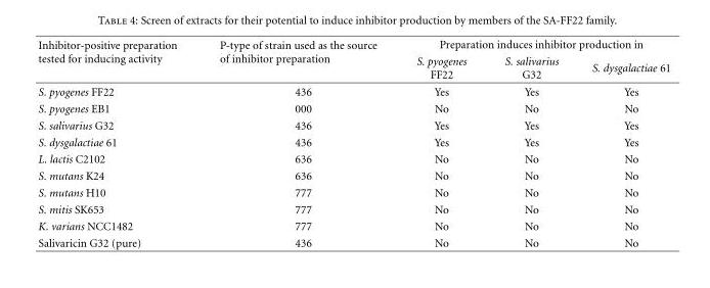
<table><thead><tr><td rowspan="2">Inhibitor-positive preparation tested for inducing activity</td><td rowspan="2">P-type of strain used as the source of inhibitor preparation</td><td colspan="3">Preparation induces inhibitor production in</td></tr><tr><td>S. pyogenes FF22</td><td>S. salivarius G32</td><td>S. dysgalactiae 61</td></tr></thead><tbody><tr><td>S. pyogenes FF22</td><td>436</td><td>Yes</td><td>Yes</td><td>Yes</td></tr><tr><td>S. pyogenes EB1</td><td>000</td><td>No</td><td>No</td><td>No</td></tr><tr><td>S. salivarius G32</td><td>436</td><td>Yes</td><td>Yes</td><td>Yes</td></tr><tr><td>S. dysgalactiae 61</td><td>436</td><td>Yes</td><td>Yes</td><td>Yes</td></tr><tr><td>L. lactis C2102</td><td>636</td><td>No</td><td>No</td><td>No</td></tr><tr><td>S. mutans K24</td><td>636</td><td>No</td><td>No</td><td>No</td></tr><tr><td>S. mutans H10</td><td>777</td><td>No</td><td>No</td><td>No</td></tr><tr><td>S. mitis SK653</td><td>777</td><td>No</td><td>No</td><td>No</td></tr><tr><td>K. varians NCC1482</td><td>777</td><td>No</td><td>No</td><td>No</td></tr><tr><td>Salivaricin G32 (pure)</td><td>436</td><td>No</td><td>No</td><td>No</td></tr></tbody></table>